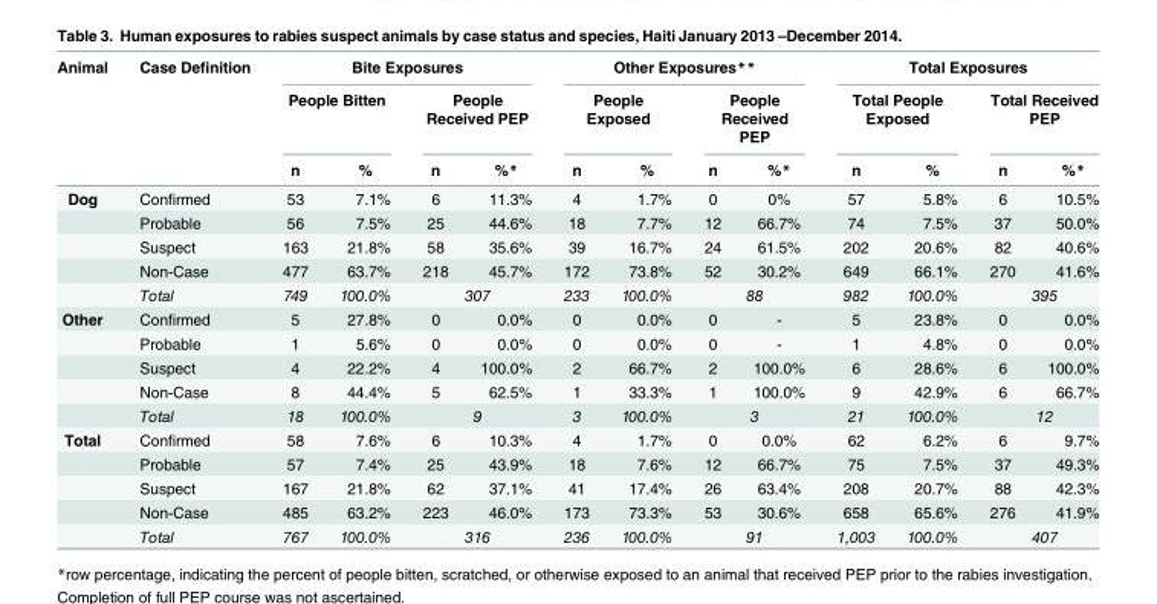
<table><thead><tr><td rowspan="3">Animal</td><td rowspan="3">Case Definition</td><td colspan="4">Bite Exposures</td><td colspan="4">Other Exposures**</td><td colspan="4">Total Exposures</td></tr><tr><td colspan="2">People Bitten</td><td colspan="2">People Received PEP</td><td colspan="2">People Exposed</td><td colspan="2">People Received PEP</td><td colspan="2">Total People Exposed</td><td colspan="2">Total Received PEP</td></tr><tr><td>n</td><td>%</td><td>n</td><td>%*</td><td>n</td><td>%</td><td>n</td><td>%*</td><td>n</td><td>%</td><td>n</td><td>%*</td></tr></thead><tbody><tr><td rowspan="5">Dog</td><td>Confirmed</td><td>53</td><td>7.1%</td><td>6</td><td>11.3%</td><td>4</td><td>1.7%</td><td>0</td><td>0%</td><td>57</td><td>5.8%</td><td>6</td><td>10.5%</td></tr><tr><td>Probable</td><td>56</td><td>7.5%</td><td>25</td><td>44.6%</td><td>18</td><td>7.7%</td><td>12</td><td>66.7%</td><td>74</td><td>7.5%</td><td>37</td><td>50.0%</td></tr><tr><td>Suspect</td><td>163</td><td>21.8%</td><td>58</td><td>35.6%</td><td>39</td><td>16.7%</td><td>24</td><td>61.5%</td><td>202</td><td>20.6%</td><td>82</td><td>40.6%</td></tr><tr><td>Non-Case</td><td>477</td><td>63.7%</td><td>218</td><td>45.7%</td><td>172</td><td>73.8%</td><td>52</td><td>30.2%</td><td>649</td><td>66.1%</td><td>270</td><td>41.6%</td></tr><tr><td>Total</td><td>749</td><td>100.0%</td><td colspan="2">307</td><td>233</td><td>100.0%</td><td colspan="2">88</td><td>982</td><td>100.0%</td><td colspan="2">395</td></tr><tr><td rowspan="5">Other</td><td>Confirmed</td><td>5</td><td>27.8%</td><td>0</td><td>0.0%</td><td>0</td><td>0.0%</td><td>0</td><td>-</td><td>5</td><td>23.8%</td><td>0</td><td>0.0%</td></tr><tr><td>Probable</td><td>1</td><td>5.6%</td><td>0</td><td>0.0%</td><td>0</td><td>0.0%</td><td>0</td><td>-</td><td>1</td><td>4.8%</td><td>0</td><td>0.0%</td></tr><tr><td>Suspect</td><td>4</td><td>22.2%</td><td>4</td><td>100.0%</td><td>2</td><td>66.7%</td><td>2</td><td>100.0%</td><td>6</td><td>28.6%</td><td>6</td><td>100.0%</td></tr><tr><td>Non-Case</td><td>8</td><td>44.4%</td><td>5</td><td>62.5%</td><td>1</td><td>33.3%</td><td>1</td><td>100.0%</td><td>9</td><td>42.9%</td><td>6</td><td>66.7%</td></tr><tr><td>Total</td><td>18</td><td>100.0%</td><td colspan="2">9</td><td>3</td><td>100.0%</td><td colspan="2">3</td><td>21</td><td>100.0%</td><td colspan="2">12</td></tr><tr><td rowspan="5">Total</td><td>Confirmed</td><td>58</td><td>7.6%</td><td>6</td><td>10.3%</td><td>4</td><td>1.7%</td><td>0</td><td>0.0%</td><td>62</td><td>6.2%</td><td>6</td><td>9.7%</td></tr><tr><td>Probable</td><td>57</td><td>7.4%</td><td>25</td><td>43.9%</td><td>18</td><td>7.6%</td><td>12</td><td>66.7%</td><td>75</td><td>7.5%</td><td>37</td><td>49.3%</td></tr><tr><td>Suspect</td><td>167</td><td>21.8%</td><td>62</td><td>37.1%</td><td>41</td><td>17.4%</td><td>26</td><td>63.4%</td><td>208</td><td>20.7%</td><td>88</td><td>42.3%</td></tr><tr><td>Non-Case</td><td>485</td><td>63.2%</td><td>223</td><td>46.0%</td><td>173</td><td>73.3%</td><td>53</td><td>30.6%</td><td>658</td><td>65.6%</td><td>276</td><td>41.9%</td></tr><tr><td>Total</td><td>767</td><td>100.0%</td><td colspan="2">316</td><td>236</td><td>100.0%</td><td colspan="2">91</td><td>1,003</td><td>100.0%</td><td colspan="2">407</td></tr></tbody></table>